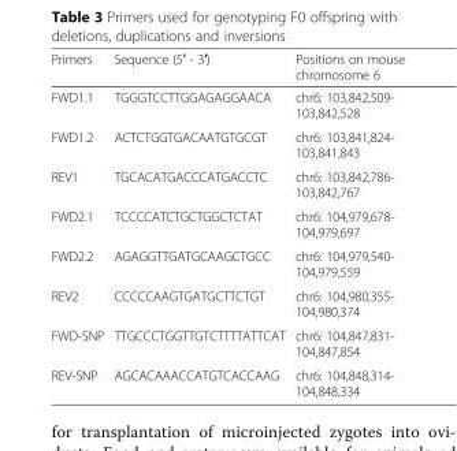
<table><thead><tr><td>Primers</td><td>Sequence (5′ - 3′)</td><td>Positions on mouse chromosome 6</td></tr></thead><tbody><tr><td>FWD1.1</td><td>TGGGTCCTTGGAGAGGAACA</td><td>chr6: 103,842,509- 103,842,528</td></tr><tr><td>FWD1.2</td><td>ACTCTGGTGACAATGTGCGT</td><td>chr6: 103,841,824- 103,841,843</td></tr><tr><td>REV1</td><td>TGCACATGACCCATGACCTC</td><td>chr6: 103,842,786- 103,842,767</td></tr><tr><td>FWD2.1</td><td>TCCCCATCTGCTGGCTCTAT</td><td>chr6: 104,979,678- 104,979,697</td></tr><tr><td>FWD2.2</td><td>AGAGGTTGATGCAAGCTGCC</td><td>chr6: 104,979,540- 104,979,559</td></tr><tr><td>REV2</td><td>CCCCCAAGTGATGCTTCTGT</td><td>chr6: 104,980,355- 104,980,374</td></tr><tr><td>FWD-SNP</td><td>TTGCCCTGGTTGTCTTTTATTCAT</td><td>chr6: 104,847,831- 104,847,854</td></tr><tr><td>REV-SNP</td><td>AGCACAAACCATGTCACCAAG</td><td>chr6: 104,848,314- 104,848,334</td></tr></tbody></table>